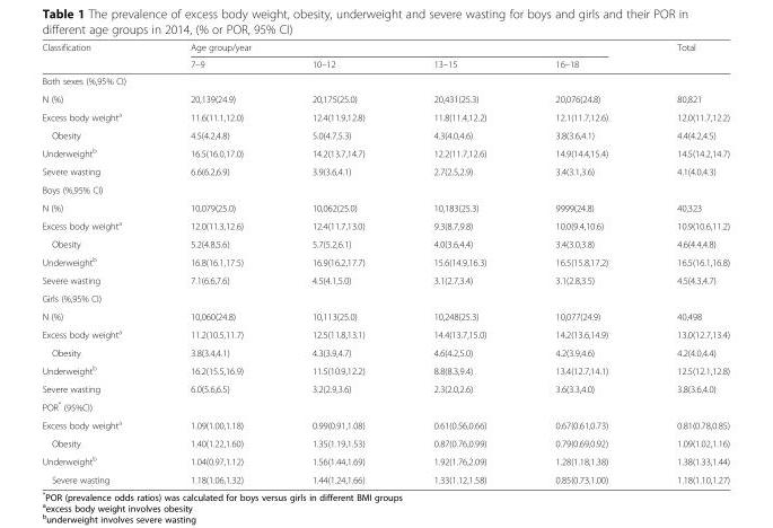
<table><thead><tr><td rowspan="2">Classification</td><td colspan="4">Age group/year</td><td rowspan="2">Total</td></tr><tr><td>7–9</td><td>10–12</td><td>13–15</td><td>16–18</td></tr></thead><tbody><tr><td colspan="6">Both sexes (%,95% CI)</td></tr><tr><td>N (%)</td><td>20,139(24.9)</td><td>20,175(25.0)</td><td>20,431(25.3)</td><td>20,076(24.8)</td><td>80,821</td></tr><tr><td>Excess body weight<sup>a</sup></td><td>11.6(11.1,12.0)</td><td>12.4(11.9,12.8)</td><td>11.8(11.4,12.2)</td><td>12.1(11.7,12.6)</td><td>12.0(11.7,12.2)</td></tr><tr><td>Obesity</td><td>4.5(4.2,4.8)</td><td>5.0(4.7,5.3)</td><td>4.3(4.0,4.6)</td><td>3.8(3.6,4.1)</td><td>4.4(4.2,4.5)</td></tr><tr><td>Underweight<sup>b</sup></td><td>16.5(16.0,17.0)</td><td>14.2(13.7,14.7)</td><td>12.2(11.7,12.6)</td><td>14.9(14.4,15.4)</td><td>14.5(14.2,14.7)</td></tr><tr><td>Severe wasting</td><td>6.6(6.2,6.9)</td><td>3.9(3.6,4.1)</td><td>2.7(2.5,2.9)</td><td>3.4(3.1,3.6)</td><td>4.1(4.0,4.3)</td></tr><tr><td colspan="6">Boys (%,95% CI)</td></tr><tr><td>N (%)</td><td>10,079(25.0)</td><td>10,062(25.0)</td><td>10,183(25.3)</td><td>9999(24.8)</td><td>40,323</td></tr><tr><td>Excess body weight<sup>a</sup></td><td>12.0(11.3,12.6)</td><td>12.4(11.7,13.0)</td><td>9.3(8.7,9.8)</td><td>10.0(9.4,10.6)</td><td>10.9(10.6,11.2)</td></tr><tr><td>Obesity</td><td>5.2(4.8,5.6)</td><td>5.7(5.2,6.1)</td><td>4.0(3.6,4.4)</td><td>3.4(3.0,3.8)</td><td>4.6(4.4,4.8)</td></tr><tr><td>Underweight<sup>b</sup></td><td>16.8(16.1,17.5)</td><td>16.9(16.2,17.7)</td><td>15.6(14.9,16.3)</td><td>16.5(15.8,17.2)</td><td>16.5(16.1,16.8)</td></tr><tr><td>Severe wasting</td><td>7.1(6.6,7.6)</td><td>4.5(4.1,5.0)</td><td>3.1(2.7,3.4)</td><td>3.1(2.8,3.5)</td><td>4.5(4.3,4.7)</td></tr><tr><td colspan="6">Girls (%,95% CI)</td></tr><tr><td>N (%)</td><td>10,060(24.8)</td><td>10,113(25.0)</td><td>10,248(25.3)</td><td>10,077(24.9)</td><td>40,498</td></tr><tr><td>Excess body weight<sup>a</sup></td><td>11.2(10.5,11.7)</td><td>12.5(11.8,13.1)</td><td>14.4(13.7,15.0)</td><td>14.2(13.6,14.9)</td><td>13.0(12.7,13.4)</td></tr><tr><td>Obesity</td><td>3.8(3.4,4.1)</td><td>4.3(3.9,4.7)</td><td>4.6(4.2,5.0)</td><td>4.2(3.9,4.6)</td><td>4.2(4.0,4.4)</td></tr><tr><td>Underweight<sup>b</sup></td><td>16.2(15.5,16.9)</td><td>11.5(10.9,12.2)</td><td>8.8(8.3,9.4)</td><td>13.4(12.7,14.1)</td><td>12.5(12.1,12.8)</td></tr><tr><td>Severe wasting</td><td>6.0(5.6,6.5)</td><td>3.2(2.9,3.6)</td><td>2.3(2.0,2.6)</td><td>3.6(3.3,4.0)</td><td>3.8(3.6,4.0)</td></tr><tr><td colspan="6">POR* (95%CI)</td></tr><tr><td>Excess body weight<sup>a</sup></td><td>1.09(1.00,1.18)</td><td>0.99(0.91,1.08)</td><td>0.61(0.56,0.66)</td><td>0.67(0.61,0.73)</td><td>0.81(0.78,0.85)</td></tr><tr><td>Obesity</td><td>1.40(1.22,1.60)</td><td>1.35(1.19,1.53)</td><td>0.87(0.76,0.99)</td><td>0.79(0.69,0.92)</td><td>1.09(1.02,1.16)</td></tr><tr><td>Underweight<sup>b</sup></td><td>1.04(0.97,1.12)</td><td>1.56(1.44,1.69)</td><td>1.92(1.76,2.09)</td><td>1.28(1.18,1.38)</td><td>1.38(1.33,1.44)</td></tr><tr><td>Severe wasting</td><td>1.18(1.06,1.32)</td><td>1.44(1.24,1.66)</td><td>1.33(1.12,1.58)</td><td>0.85(0.73,1.00)</td><td>1.18(1.10,1.27)</td></tr></tbody></table>